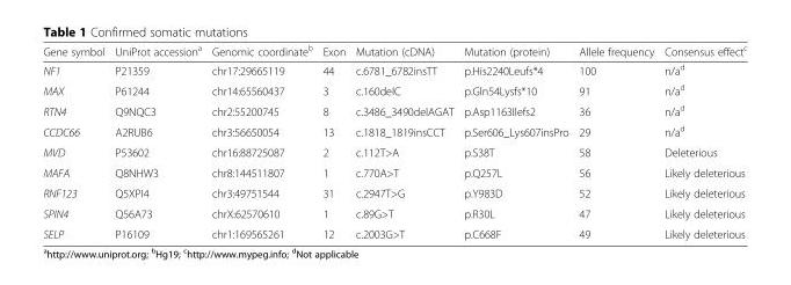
<table><thead><tr><td>Gene symbol</td><td>UniProt accession<sup>a</sup></td><td>Genomic coordinate<sup>b</sup></td><td>Exon</td><td>Mutation (cDNA)</td><td>Mutation (protein)</td><td>Allele frequency</td><td>Consensus effect<sup>c</sup></td></tr></thead><tbody><tr><td>NF1</td><td>P21359</td><td>chr17:29665119</td><td>44</td><td>c.6781_6782insTT</td><td>p.His2240Leufs*4</td><td>100</td><td>n/a<sup>d</sup></td></tr><tr><td>MAX</td><td>P61244</td><td>chr14:65560437</td><td>3</td><td>c.160delC</td><td>p.Gln54Lysfs*10</td><td>91</td><td>n/a<sup>d</sup></td></tr><tr><td>RTN4</td><td>Q9NQC3</td><td>chr2:55200745</td><td>8</td><td>c.3486_3490delAGAT</td><td>p.Asp1163Ilefs2</td><td>36</td><td>n/a<sup>d</sup></td></tr><tr><td>CCDC66</td><td>A2RUB6</td><td>chr3:56650054</td><td>13</td><td>c.1818_1819insCCT</td><td>p.Ser606_Lys607insPro</td><td>29</td><td>n/a<sup>d</sup></td></tr><tr><td>MVD</td><td>P53602</td><td>chr16:88725087</td><td>2</td><td>c.112T&gt;A</td><td>p.S38T</td><td>58</td><td>Deleterious</td></tr><tr><td>MAFA</td><td>Q8NHW3</td><td>chr8:144511807</td><td>1</td><td>c.770A&gt;T</td><td>p.Q257L</td><td>56</td><td>Likely deleterious</td></tr><tr><td>RNF123</td><td>Q5XPI4</td><td>chr3:49751544</td><td>31</td><td>c.2947T&gt;G</td><td>p.Y983D</td><td>52</td><td>Likely deleterious</td></tr><tr><td>SPIN4</td><td>Q56A73</td><td>chrX:62570610</td><td>1</td><td>c.89G&gt;T</td><td>p.R30L</td><td>47</td><td>Likely deleterious</td></tr><tr><td>SELP</td><td>P16109</td><td>chr1:169565261</td><td>12</td><td>c.2003G&gt;T</td><td>p.C668F</td><td>49</td><td>Likely deleterious</td></tr></tbody></table>